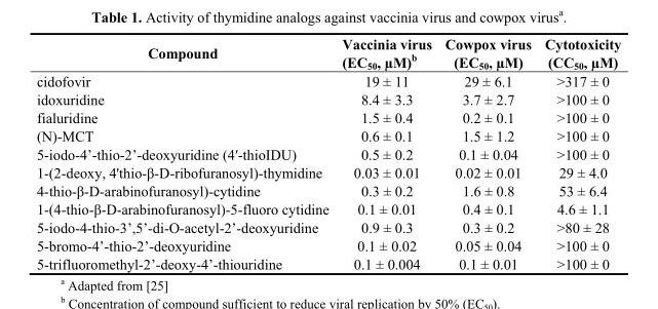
<table><thead><tr><td>Compound</td><td>Vaccinia virus (EC<sub>50</sub>, µM)<sup>b</sup></td><td>Cowpox virus (EC<sub>50</sub>, µM)</td><td>Cytotoxicity (CC<sub>50</sub>, µM)</td></tr></thead><tbody><tr><td>cidofovir</td><td>19 ± 11</td><td>29 ± 6.1</td><td>&gt;317 ± 0</td></tr><tr><td>idoxuridine</td><td>8.4 ± 3.3</td><td>3.7 ± 2.7</td><td>&gt;100 ± 0</td></tr><tr><td>fialuridine</td><td>1.5 ± 0.4</td><td>0.2 ± 0.1</td><td>&gt;100 ± 0</td></tr><tr><td>(N)-MCT</td><td>0.6 ± 0.1</td><td>1.5 ± 1.2</td><td>&gt;100 ± 0</td></tr><tr><td>5-iodo-4’-thio-2’-deoxyuridine (4′-thioIDU)</td><td>0.5 ± 0.2</td><td>0.1 ± 0.04</td><td>&gt;100 ± 0</td></tr><tr><td>1-(2-deoxy, 4&#x27;thio-β-D-ribofuranosyl)-thymidine</td><td>0.03 ± 0.01</td><td>0.02 ± 0.01</td><td>29 ± 4.0</td></tr><tr><td>4-thio-β-D-arabinofuranosyl)-cytidine</td><td>0.3 ± 0.2</td><td>1.6 ± 0.8</td><td>53 ± 6.4</td></tr><tr><td>1-(4-thio-β-D-arabinofuranosyl)-5-fluoro cytidine</td><td>0.1 ± 0.01</td><td>0.4 ± 0.1</td><td>4.6 ± 1.1</td></tr><tr><td>5-iodo-4-thio-3’,5’-di-O-acetyl-2’-deoxyuridine</td><td>0.9 ± 0.3</td><td>0.3 ± 0.2</td><td>&gt;80 ± 28</td></tr><tr><td>5-bromo-4’-thio-2’-deoxyuridine</td><td>0.1 ± 0.02</td><td>0.05 ± 0.04</td><td>&gt;100 ± 0</td></tr><tr><td>5-trifluoromethyl-2’-deoxy-4’-thiouridine</td><td>0.1 ± 0.004</td><td>0.1 ± 0.01</td><td>&gt;100 ± 0</td></tr></tbody></table>